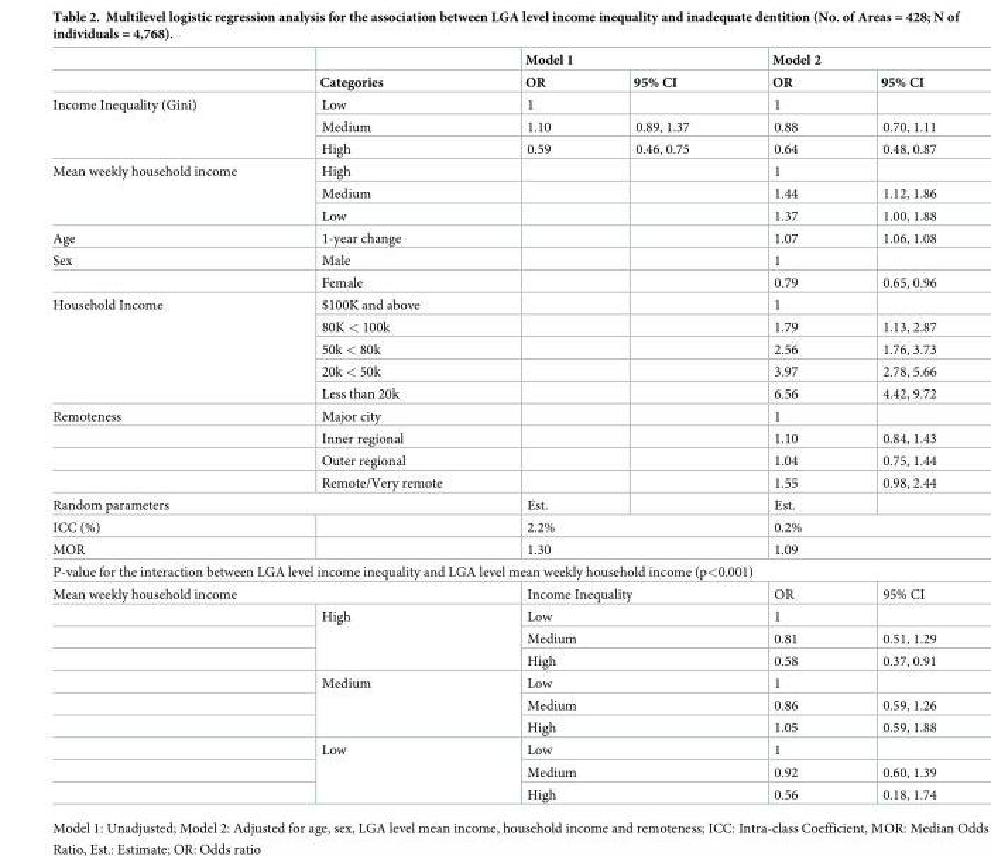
<table><thead><tr><td rowspan="2"></td><td rowspan="2">Categories</td><td colspan="2">Model 1</td><td colspan="2">Model 2</td></tr><tr><td>OR</td><td>95% CI</td><td>OR</td><td>95% CI</td></tr></thead><tbody><tr><td rowspan="3">Income Inequality (Gini)</td><td>Low</td><td>1</td><td></td><td>1</td><td></td></tr><tr><td>Medium</td><td>1.10</td><td>0.89, 1.37</td><td>0.88</td><td>0.70, 1.11</td></tr><tr><td>High</td><td>0.59</td><td>0.46, 0.75</td><td>0.64</td><td>0.48, 0.87</td></tr><tr><td rowspan="3">Mean weekly household income</td><td>High</td><td></td><td></td><td>1</td><td></td></tr><tr><td>Medium</td><td></td><td></td><td>1.44</td><td>1.12, 1.86</td></tr><tr><td>Low</td><td></td><td></td><td>1.37</td><td>1.00, 1.88</td></tr><tr><td>Age</td><td>1-year change</td><td></td><td></td><td>1.07</td><td>1.06, 1.08</td></tr><tr><td rowspan="2">Sex</td><td>Male</td><td></td><td></td><td>1</td><td></td></tr><tr><td>Female</td><td></td><td></td><td>0.79</td><td>0.65, 0.96</td></tr><tr><td rowspan="5">Household Income</td><td>$100K and above</td><td></td><td></td><td>1</td><td></td></tr><tr><td>80K &lt; 100k</td><td></td><td></td><td>1.79</td><td>1.13, 2.87</td></tr><tr><td>50k &lt; 80k</td><td></td><td></td><td>2.56</td><td>1.76, 3.73</td></tr><tr><td>20k &lt; 50k</td><td></td><td></td><td>3.97</td><td>2.78, 5.66</td></tr><tr><td>Less than 20k</td><td></td><td></td><td>6.56</td><td>4.42, 9.72</td></tr><tr><td rowspan="4">Remoteness</td><td>Major city</td><td></td><td></td><td>1</td><td></td></tr><tr><td>Inner regional</td><td></td><td></td><td>1.10</td><td>0.84, 1.43</td></tr><tr><td>Outer regional</td><td></td><td></td><td>1.04</td><td>0.75, 1.44</td></tr><tr><td>Remote/Very remote</td><td></td><td></td><td>1.55</td><td>0.98, 2.44</td></tr><tr><td colspan="2">Random parameters</td><td>Est.</td><td></td><td>Est.</td><td></td></tr><tr><td>ICC (%)</td><td></td><td colspan="2">2.2%</td><td colspan="2">0.2%</td></tr><tr><td>MOR</td><td></td><td colspan="2">1.30</td><td colspan="2">1.09</td></tr><tr><td colspan="6">P-value for the interaction between LGA level income inequality and LGA level mean weekly household income (p&lt;0.001)</td></tr><tr><td colspan="2">Mean weekly household income</td><td colspan="2">Income Inequality</td><td>OR</td><td>95% CI</td></tr><tr><td></td><td rowspan="3">High</td><td colspan="2">Low</td><td>1</td><td></td></tr><tr><td></td><td colspan="2">Medium</td><td>0.81</td><td>0.51, 1.29</td></tr><tr><td></td><td colspan="2">High</td><td>0.58</td><td>0.37, 0.91</td></tr><tr><td></td><td rowspan="3">Medium</td><td colspan="2">Low</td><td>1</td><td></td></tr><tr><td></td><td colspan="2">Medium</td><td>0.86</td><td>0.59, 1.26</td></tr><tr><td></td><td colspan="2">High</td><td>1.05</td><td>0.59, 1.88</td></tr><tr><td></td><td rowspan="3">Low</td><td colspan="2">Low</td><td>1</td><td></td></tr><tr><td></td><td colspan="2">Medium</td><td>0.92</td><td>0.60, 1.39</td></tr><tr><td></td><td colspan="2">High</td><td>0.56</td><td>0.18, 1.74</td></tr></tbody></table>